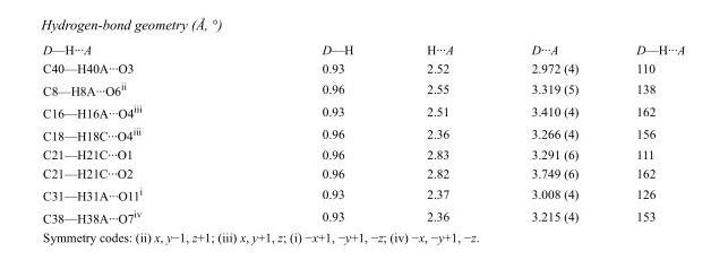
<table><tbody><tr><td>D—H···A</td><td>D—H</td><td>H···A</td><td>D···A</td><td>D—H···A</td></tr><tr><td>C40—H40A···O3</td><td>0.93</td><td>2.52</td><td>2.972 (4)</td><td>110</td></tr><tr><td>C8—H8A···O6<sup>ii</sup></td><td>0.96</td><td>2.55</td><td>3.319 (5)</td><td>138</td></tr><tr><td>C16—H16A···O4<sup>iii</sup></td><td>0.93</td><td>2.51</td><td>3.410 (4)</td><td>162</td></tr><tr><td>C18—H18C···O4<sup>iii</sup></td><td>0.96</td><td>2.36</td><td>3.266 (4)</td><td>156</td></tr><tr><td>C21—H21C···O1</td><td>0.96</td><td>2.83</td><td>3.291 (6)</td><td>111</td></tr><tr><td>C21—H21C···O2</td><td>0.96</td><td>2.82</td><td>3.749 (6)</td><td>162</td></tr><tr><td>C31—H31A···O11<sup>i</sup></td><td>0.93</td><td>2.37</td><td>3.008 (4)</td><td>126</td></tr><tr><td>C38—H38A···O7<sup>iv</sup></td><td>0.93</td><td>2.36</td><td>3.215 (4)</td><td>153</td></tr></tbody></table>